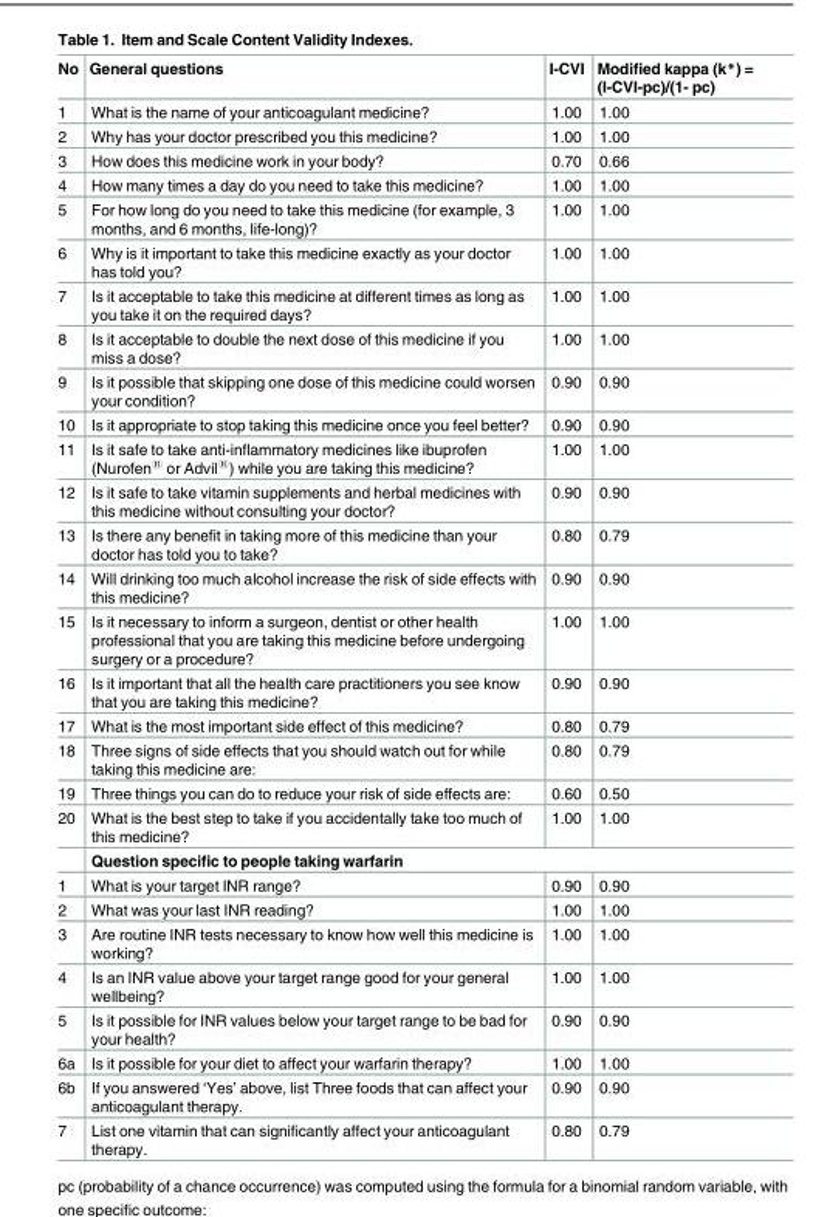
<table><thead><tr><td>No</td><td>General questions</td><td>I-CVI</td><td>Modified kappa (k*) = (I-CVI-pc)/(1- pc)</td></tr></thead><tbody><tr><td>1</td><td>What is the name of your anticoagulant medicine?</td><td>1.00</td><td>1.00</td></tr><tr><td>2</td><td>Why has your doctor prescribed you this medicine?</td><td>1.00</td><td>1.00</td></tr><tr><td>3</td><td>How does this medicine work in your body?</td><td>0.70</td><td>0.66</td></tr><tr><td>4</td><td>How many times a day do you need to take this medicine?</td><td>1.00</td><td>1.00</td></tr><tr><td>5</td><td>For how long do you need to take this medicine (for example, 3 months, and 6 months, life-long)?</td><td>1.00</td><td>1.00</td></tr><tr><td>6</td><td>Why is it important to take this medicine exactly as your doctor has told you?</td><td>1.00</td><td>1.00</td></tr><tr><td>7</td><td>Is it acceptable to take this medicine at different times as long as you take it on the required days?</td><td>1.00</td><td>1.00</td></tr><tr><td>8</td><td>Is it acceptable to double the next dose of this medicine if you miss a dose?</td><td>1.00</td><td>1.00</td></tr><tr><td>9</td><td>Is it possible that skipping one dose of this medicine could worsen your condition?</td><td>0.90</td><td>0.90</td></tr><tr><td>10</td><td>Is it appropriate to stop taking this medicine once you feel better?</td><td>0.90</td><td>0.90</td></tr><tr><td>11</td><td>Is it safe to take anti-inflammatory medicines like ibuprofen (Nurofen<sup>®</sup> or Advil<sup>®</sup>) while you are taking this medicine?</td><td>1.00</td><td>1.00</td></tr><tr><td>12</td><td>Is it safe to take vitamin supplements and herbal medicines with this medicine without consulting your doctor?</td><td>0.90</td><td>0.90</td></tr><tr><td>13</td><td>Is there any benefit in taking more of this medicine than your doctor has told you to take?</td><td>0.80</td><td>0.79</td></tr><tr><td>14</td><td>Will drinking too much alcohol increase the risk of side effects with this medicine?</td><td>0.90</td><td>0.90</td></tr><tr><td>15</td><td>Is it necessary to inform a surgeon, dentist or other health professional that you are taking this medicine before undergoing surgery or a procedure?</td><td>1.00</td><td>1.00</td></tr><tr><td>16</td><td>Is it important that all the health care practitioners you see know that you are taking this medicine?</td><td>0.90</td><td>0.90</td></tr><tr><td>17</td><td>What is the most important side effect of this medicine?</td><td>0.80</td><td>0.79</td></tr><tr><td>18</td><td>Three signs of side effects that you should watch out for while taking this medicine are:</td><td>0.80</td><td>0.79</td></tr><tr><td>19</td><td>Three things you can do to reduce your risk of side effects are:</td><td>0.60</td><td>0.50</td></tr><tr><td rowspan="2">20</td><td>What is the best step to take if you accidentally take too much of this medicine?</td><td>1.00</td><td>1.00</td></tr><tr><td colspan="3">Question specific to people taking warfarin</td></tr><tr><td>1</td><td>What is your target INR range?</td><td>0.90</td><td>0.90</td></tr><tr><td>2</td><td>What was your last INR reading?</td><td>1.00</td><td>1.00</td></tr><tr><td>3</td><td>Are routine INR tests necessary to know how well this medicine is working?</td><td>1.00</td><td>1.00</td></tr><tr><td>4</td><td>Is an INR value above your target range good for your general wellbeing?</td><td>1.00</td><td>1.00</td></tr><tr><td>5</td><td>Is it possible for INR values below your target range to be bad for your health?</td><td>0.90</td><td>0.90</td></tr><tr><td>6a</td><td>Is it possible for your diet to affect your warfarin therapy?</td><td>1.00</td><td>1.00</td></tr><tr><td>6b</td><td>If you answered ‘Yes’ above, list Three foods that can affect your anticoagulant therapy.</td><td>0.90</td><td>0.90</td></tr><tr><td>7</td><td>List one vitamin that can significantly affect your anticoagulant therapy.</td><td>0.80</td><td>0.79</td></tr></tbody></table>